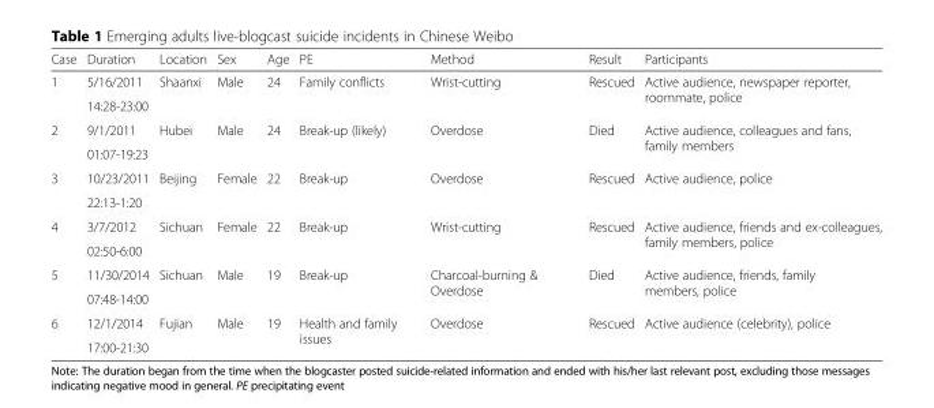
<table><thead><tr><td>Case</td><td>Duration</td><td>Location</td><td>Sex</td><td>Age</td><td>PE</td><td>Method</td><td>Result</td><td>Participants</td></tr></thead><tbody><tr><td rowspan="2">1</td><td>5/16/2011</td><td rowspan="2">Shaanxi</td><td rowspan="2">Male</td><td rowspan="2">24</td><td rowspan="2">Family conflicts</td><td rowspan="2">Wrist-cutting</td><td rowspan="2">Rescued</td><td rowspan="2">Active audience, newspaper reporter, roommate, police</td></tr><tr><td>14:28-23:00</td></tr><tr><td rowspan="2">2</td><td>9/1/2011</td><td rowspan="2">Hubei</td><td rowspan="2">Male</td><td rowspan="2">24</td><td rowspan="2">Break-up (likely)</td><td rowspan="2">Overdose</td><td rowspan="2">Died</td><td rowspan="2">Active audience, colleagues and fans, family members</td></tr><tr><td>01:07-19:23</td></tr><tr><td rowspan="2">3</td><td>10/23/2011</td><td rowspan="2">Beijing</td><td rowspan="2">Female</td><td rowspan="2">22</td><td rowspan="2">Break-up</td><td rowspan="2">Overdose</td><td rowspan="2">Rescued</td><td rowspan="2">Active audience, police</td></tr><tr><td>22:13-1:20</td></tr><tr><td rowspan="2">4</td><td>3/7/2012</td><td rowspan="2">Sichuan</td><td rowspan="2">Female</td><td rowspan="2">22</td><td rowspan="2">Break-up</td><td rowspan="2">Wrist-cutting</td><td rowspan="2">Rescued</td><td rowspan="2">Active audience, friends and ex-colleagues, family members, police</td></tr><tr><td>02:50-6:00</td></tr><tr><td rowspan="2">5</td><td>11/30/2014</td><td rowspan="2">Sichuan</td><td rowspan="2">Male</td><td rowspan="2">19</td><td rowspan="2">Break-up</td><td rowspan="2">Charcoal-burning &amp; Overdose</td><td rowspan="2">Died</td><td rowspan="2">Active audience, friends, family members, police</td></tr><tr><td>07:48-14:00</td></tr><tr><td rowspan="2">6</td><td>12/1/2014</td><td rowspan="2">Fujian</td><td rowspan="2">Male</td><td rowspan="2">19</td><td rowspan="2">Health and family issues</td><td rowspan="2">Overdose</td><td rowspan="2">Rescued</td><td rowspan="2">Active audience (celebrity), police</td></tr><tr><td>17:00-21:30</td></tr></tbody></table>